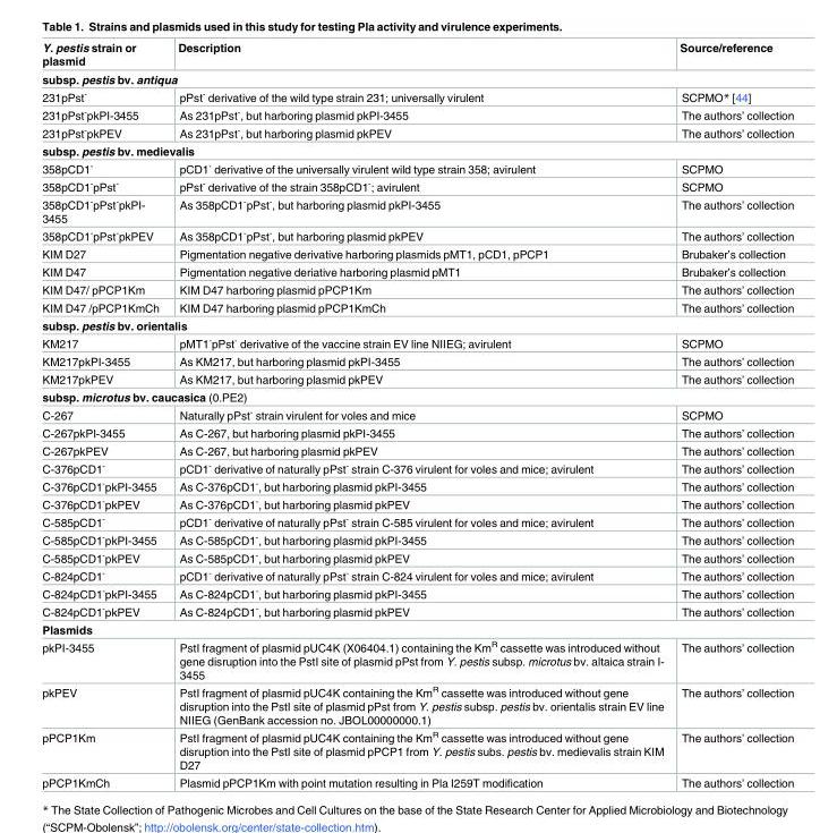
<table><thead><tr><td>Y. pestis strain or plasmid</td><td>Description</td><td>Source/reference</td></tr></thead><tbody><tr><td colspan="3">subsp. pestis bv. antiqua</td></tr><tr><td>231pPst<sup>-</sup></td><td>pPst<sup>-</sup> derivative of the wild type strain 231; universally virulent</td><td>SCPMO* [44]</td></tr><tr><td>231pPst<sup>-</sup>pkPI-3455</td><td>As 231pPst<sup>-</sup>, but harboring plasmid pkPI-3455</td><td>The authors’ collection</td></tr><tr><td>231pPst<sup>-</sup>pkPEV</td><td>As 231pPst<sup>-</sup>, but harboring plasmid pkPEV</td><td>The authors’ collection</td></tr><tr><td colspan="3">subsp. pestis bv. medievalis</td></tr><tr><td>358pCD1<sup>-</sup></td><td>pCD1<sup>-</sup> derivative of the universally virulent wild type strain 358; avirulent</td><td>SCPMO</td></tr><tr><td>358pCD1<sup>-</sup>pPst<sup>-</sup></td><td>pPst<sup>-</sup> derivative of the strain 358pCD1<sup>-</sup>; avirulent</td><td>SCPMO</td></tr><tr><td>358pCD1<sup>-</sup>pPst<sup>-</sup>pkPI- 3455</td><td>As 358pCD1<sup>-</sup>pPst<sup>-</sup>, but harboring plasmid pkPI-3455</td><td>The authors’ collection</td></tr><tr><td>358pCD1<sup>-</sup>pPst<sup>-</sup>pkPEV</td><td>As 358pCD1<sup>-</sup>pPst<sup>-</sup>, but harboring plasmid pkPEV</td><td>The authors’ collection</td></tr><tr><td>KIM D27</td><td>Pigmentation negative derivative harboring plasmids pMT1, pCD1, pPCP1</td><td>Brubaker’s collection</td></tr><tr><td>KIM D47</td><td>Pigmentation negative deriative harboring plasmid pMT1</td><td>Brubaker’s collection</td></tr><tr><td>KIM D47/ pPCP1Km</td><td>KIM D47 harboring plasmid pPCP1Km</td><td>The authors’ collection</td></tr><tr><td>KIM D47 /pPCP1KmCh</td><td>KIM D47 harboring plasmid pPCP1KmCh</td><td>The authors’ collection</td></tr><tr><td colspan="3">subsp. pestis bv. orientalis</td></tr><tr><td>KM217</td><td>pMT1<sup>-</sup>pPst<sup>-</sup> derivative of the vaccine strain EV line NIIEG; avirulent</td><td>SCPMO</td></tr><tr><td>KM217pkPI-3455</td><td>As KM217, but harboring plasmid pkPI-3455</td><td>The authors’ collection</td></tr><tr><td>KM217pkPEV</td><td>As KM217, but harboring plasmid pkPEV</td><td>The authors’ collection</td></tr><tr><td colspan="3">subsp. microtus bv. caucasica (0.PE2)</td></tr><tr><td>C-267</td><td>Naturally pPst<sup>-</sup> strain virulent for voles and mice</td><td>SCPMO</td></tr><tr><td>C-267pkPI-3455</td><td>As C-267, but harboring plasmid pkPI-3455</td><td>The authors’ collection</td></tr><tr><td>C-267pkPEV</td><td>As C-267, but harboring plasmid pkPEV</td><td>The authors’ collection</td></tr><tr><td>C-376pCD1<sup>-</sup></td><td>pCD1<sup>-</sup> derivative of naturally pPst<sup>-</sup> strain C-376 virulent for voles and mice; avirulent</td><td>The authors’ collection</td></tr><tr><td>C-376pCD1<sup>-</sup>pkPI-3455</td><td>As C-376pCD1<sup>-</sup>, but harboring plasmid pkPI-3455</td><td>The authors’ collection</td></tr><tr><td>C-376pCD1<sup>-</sup>pkPEV</td><td>As C-376pCD1<sup>-</sup>, but harboring plasmid pkPEV</td><td>The authors’ collection</td></tr><tr><td>C-585pCD1<sup>-</sup></td><td>pCD1<sup>-</sup> derivative of naturally pPst<sup>-</sup> strain C-585 virulent for voles and mice; avirulent</td><td>The authors’ collection</td></tr><tr><td>C-585pCD1<sup>-</sup>pkPI-3455</td><td>As C-585pCD1<sup>-</sup>, but harboring plasmid pkPI-3455</td><td>The authors’ collection</td></tr><tr><td>C-585pCD1<sup>-</sup>pkPEV</td><td>As C-585pCD1<sup>-</sup>, but harboring plasmid pkPEV</td><td>The authors’ collection</td></tr><tr><td>C-824pCD1<sup>-</sup></td><td>pCD1<sup>-</sup> derivative of naturally pPst<sup>-</sup> strain C-824 virulent for voles and mice; avirulent</td><td>The authors’ collection</td></tr><tr><td>C-824pCD1<sup>-</sup>pkPI-3455</td><td>As C-824pCD1<sup>-</sup>, but harboring plasmid pkPI-3455</td><td>The authors’ collection</td></tr><tr><td>C-824pCD1<sup>-</sup>pkPEV</td><td>As C-824pCD1<sup>-</sup>, but harboring plasmid pkPEV</td><td>The authors’ collection</td></tr><tr><td colspan="3">Plasmids</td></tr><tr><td>pkPI-3455</td><td>PstI fragment of plasmid pUC4K (X06404.1) containing the Km<sup>R</sup> cassette was introduced without gene disruption into the PstI site of plasmid pPst from Y. pestis subsp. microtus bv. altaica strain I- 3455</td><td>The authors’ collection</td></tr><tr><td>pkPEV</td><td>PstI fragment of plasmid pUC4K containing the Km<sup>R</sup> cassette was introduced without gene disruption into the PstI site of plasmid pPst from Y. pestis subsp. pestis bv. orientalis strain EV line NIIEG (GenBank accession no. JBOL00000000.1)</td><td>The authors’ collection</td></tr><tr><td>pPCP1Km</td><td>PstI fragment of plasmid pUC4K containing the Km<sup>R</sup> cassette was introduced without gene disruption into the PstI site of plasmid pPCP1 from Y. pestis subs. pestis bv. medievalis strain KIM D27</td><td>The authors’ collection</td></tr><tr><td>pPCP1KmCh</td><td>Plasmid pPCP1Km with point mutation resulting in Pla I259T modification</td><td>The authors’ collection</td></tr></tbody></table>